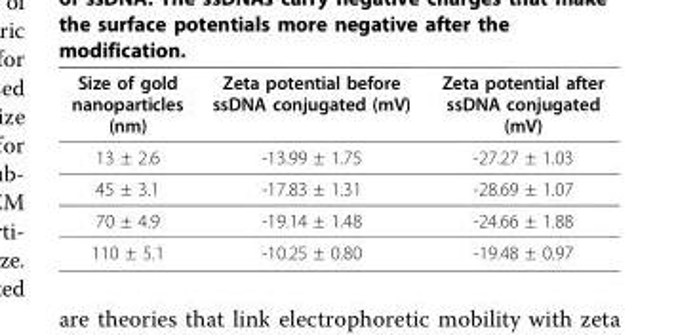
<table><thead><tr><td>Size of gold nanoparticles (nm)</td><td>Zeta potential before ssDNA conjugated (mV)</td><td>Zeta potential after ssDNA conjugated (mV)</td></tr></thead><tbody><tr><td>13 ± 2.6</td><td>-13.99 ± 1.75</td><td>-27.27 ± 1.03</td></tr><tr><td>45 ± 3.1</td><td>-17.83 ± 1.31</td><td>-28.69 ± 1.07</td></tr><tr><td>70 ± 4.9</td><td>-19.14 ± 1.48</td><td>-24.66 ± 1.88</td></tr><tr><td>110 ± 5.1</td><td>-10.25 ± 0.80</td><td>-19.48 ± 0.97</td></tr></tbody></table>